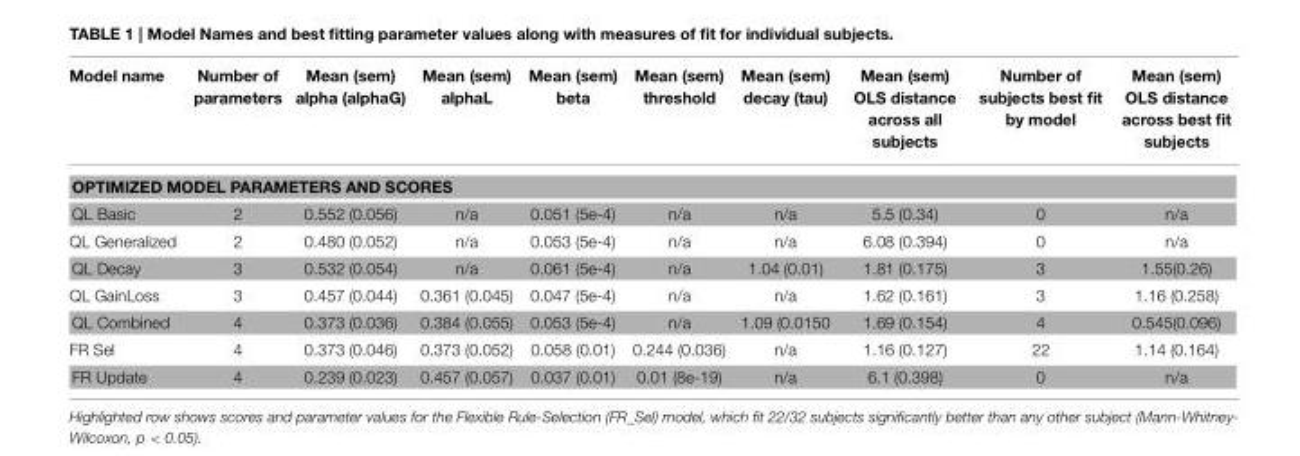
<table><thead><tr><td>Model name</td><td>Number of parameters</td><td>Mean (sem) alpha (alphaG)</td><td>Mean (sem) alphaL</td><td>Mean (sem) beta</td><td>Mean (sem) threshold</td><td>Mean (sem) decay (tau)</td><td>Mean (sem) OLS distance across all subjects</td><td>Number of subjects best fit by model</td><td>Mean (sem) OLS distance across best fit subjects</td></tr></thead><tbody><tr><td colspan="10">OPTIMIZED MODEL PARAMETERS AND SCORES</td></tr><tr><td>QL Basic</td><td>2</td><td>0.552 (0.056)</td><td>n/a</td><td>0.051 (5e-4)</td><td>n/a</td><td>n/a</td><td>5.5 (0.34)</td><td>0</td><td>n/a</td></tr><tr><td>QL Generalized</td><td>2</td><td>0.480 (0.052)</td><td>n/a</td><td>0.053 (5e-4)</td><td>n/a</td><td>n/a</td><td>6.08 (0.394)</td><td>0</td><td>n/a</td></tr><tr><td>QL Decay</td><td>3</td><td>0.532 (0.054)</td><td>n/a</td><td>0.061 (5e-4)</td><td>n/a</td><td>1.04 (0.01)</td><td>1.81 (0.175)</td><td>3</td><td>1.55(0.26)</td></tr><tr><td>QL GainLoss</td><td>3</td><td>0.457 (0.044)</td><td>0.361 (0.045)</td><td>0.047 (5e-4)</td><td>n/a</td><td>n/a</td><td>1.62 (0.161)</td><td>3</td><td>1.16 (0.258)</td></tr><tr><td>QL Combined</td><td>4</td><td>0.373 (0.036)</td><td>0.384 (0.055)</td><td>0.053 (5e-4)</td><td>n/a</td><td>1.09 (0.0150</td><td>1.69 (0.154)</td><td>4</td><td>0.545(0.096)</td></tr><tr><td>FR Sel</td><td>4</td><td>0.373 (0.046)</td><td>0.373 (0.052)</td><td>0.058 (0.01)</td><td>0.244 (0.036)</td><td>n/a</td><td>1.16 (0.127)</td><td>22</td><td>1.14 (0.164)</td></tr><tr><td>FR Update</td><td>4</td><td>0.239 (0.023)</td><td>0.457 (0.057)</td><td>0.037 (0.01)</td><td>0.01 (8e-19)</td><td>n/a</td><td>6.1 (0.398)</td><td>0</td><td>n/a</td></tr></tbody></table>